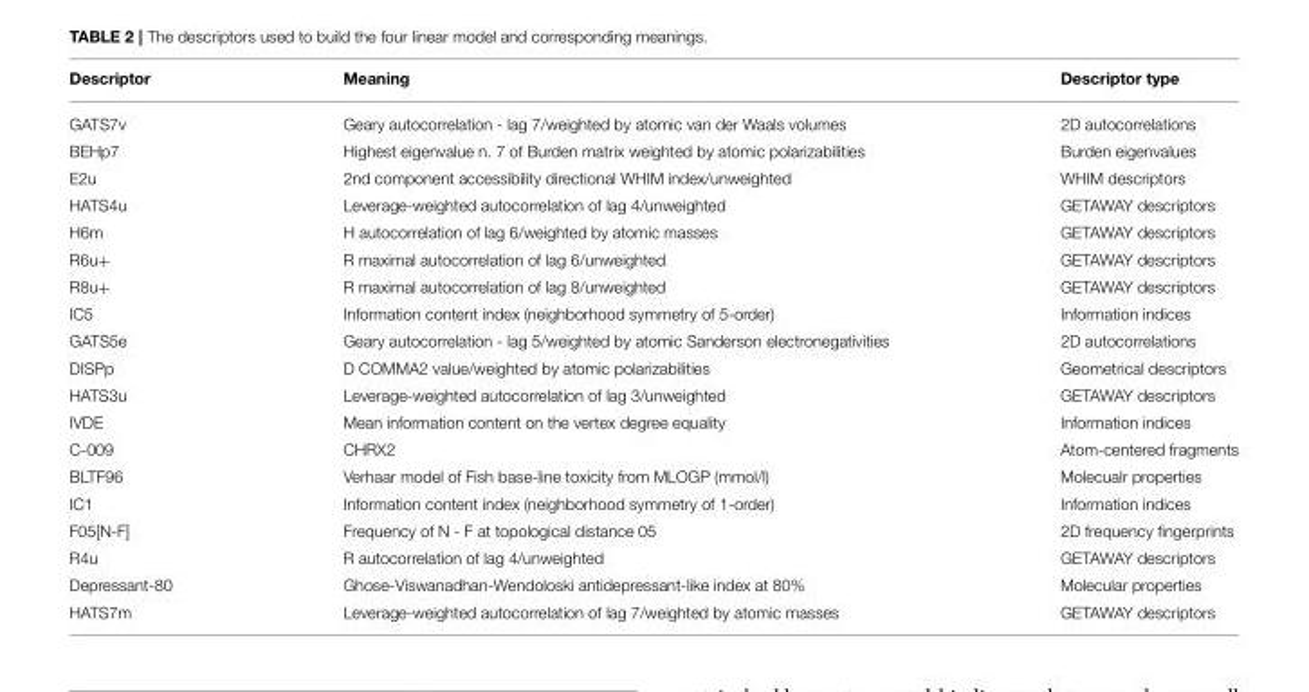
<table><thead><tr><td>Descriptor</td><td>Meaning</td><td>Descriptor type</td></tr></thead><tbody><tr><td>GATS7v</td><td>Geary autocorrelation - lag 7/weighted by atomic van der Waals volumes</td><td>2D autocorrelations</td></tr><tr><td>BEHp7</td><td>Highest eigenvalue n. 7 of Burden matrix weighted by atomic polarizabilities</td><td>Burden eigenvalues</td></tr><tr><td>E2u</td><td>2nd component accessibility directional WHIM index/unweighted</td><td>WHIM descriptors</td></tr><tr><td>HATS4u</td><td>Leverage-weighted autocorrelation of lag 4/unweighted</td><td>GETAWAY descriptors</td></tr><tr><td>H6m</td><td>H autocorrelation of lag 6/weighted by atomic masses</td><td>GETAWAY descriptors</td></tr><tr><td>R6u+</td><td>R maximal autocorrelation of lag 6/unweighted</td><td>GETAWAY descriptors</td></tr><tr><td>R8u+</td><td>R maximal autocorrelation of lag 8/unweighted</td><td>GETAWAY descriptors</td></tr><tr><td>IC5</td><td>Information content index (neighborhood symmetry of 5-order)</td><td>Information indices</td></tr><tr><td>GATS5e</td><td>Geary autocorrelation - lag 5/weighted by atomic Sanderson electronegativities</td><td>2D autocorrelations</td></tr><tr><td>DISPp</td><td>D COMMA2 value/weighted by atomic polarizabilities</td><td>Geometrical descriptors</td></tr><tr><td>HATS3u</td><td>Leverage-weighted autocorrelation of lag 3/unweighted</td><td>GETAWAY descriptors</td></tr><tr><td>IVDE</td><td>Mean information content on the vertex degree equality</td><td>Information indices</td></tr><tr><td>C-009</td><td>CHRX2</td><td>Atom-centered fragments</td></tr><tr><td>BLTF96</td><td>Verhaar model of Fish base-line toxicity from MLOGP (mmol/l)</td><td>Molecualr properties</td></tr><tr><td>IC1</td><td>Information content index (neighborhood symmetry of 1-order)</td><td>Information indices</td></tr><tr><td>F05[N-F]</td><td>Frequency of N - F at topological distance 05</td><td>2D frequency fingerprints</td></tr><tr><td>R4u</td><td>R autocorrelation of lag 4/unweighted</td><td>GETAWAY descriptors</td></tr><tr><td>Depressant-80</td><td>Ghose-Viswanadhan-Wendoloski antidepressant-like index at 80%</td><td>Molecular properties</td></tr><tr><td>HATS7m</td><td>Leverage-weighted autocorrelation of lag 7/weighted by atomic masses</td><td>GETAWAY descriptors</td></tr></tbody></table>